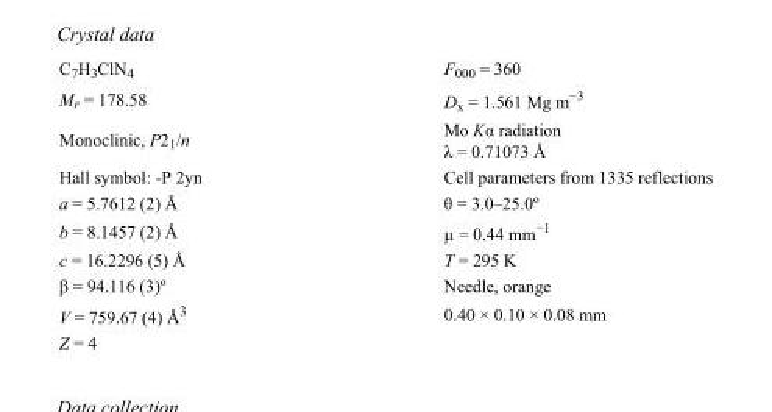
<table><tbody><tr><td>C<sub>7</sub>H<sub>3</sub>ClN<sub>4</sub></td><td>F000 = 360</td></tr><tr><td>M<sub>r</sub> = 178.58</td><td>D<sub>x</sub> = 1.561 Mg m<sup>−3</sup></td></tr><tr><td>Monoclinic, P2<sub>1</sub>/n</td><td>Mo Kα radiation λ = 0.71073 Å</td></tr><tr><td>Hall symbol: -P 2yn</td><td>Cell parameters from 1335 reflections</td></tr><tr><td>a = 5.7612 (2) Å</td><td>θ = 3.0–25.0º</td></tr><tr><td>b = 8.1457 (2) Å</td><td>µ = 0.44 mm<sup>−1</sup></td></tr><tr><td>c = 16.2296 (5) Å</td><td>T = 295 K</td></tr><tr><td>β = 94.116 (3)º</td><td>Needle, orange</td></tr><tr><td>V = 759.67 (4) Å<sup>3</sup></td><td>0.40 × 0.10 × 0.08 mm</td></tr><tr><td>Z = 4</td><td></td></tr></tbody></table>